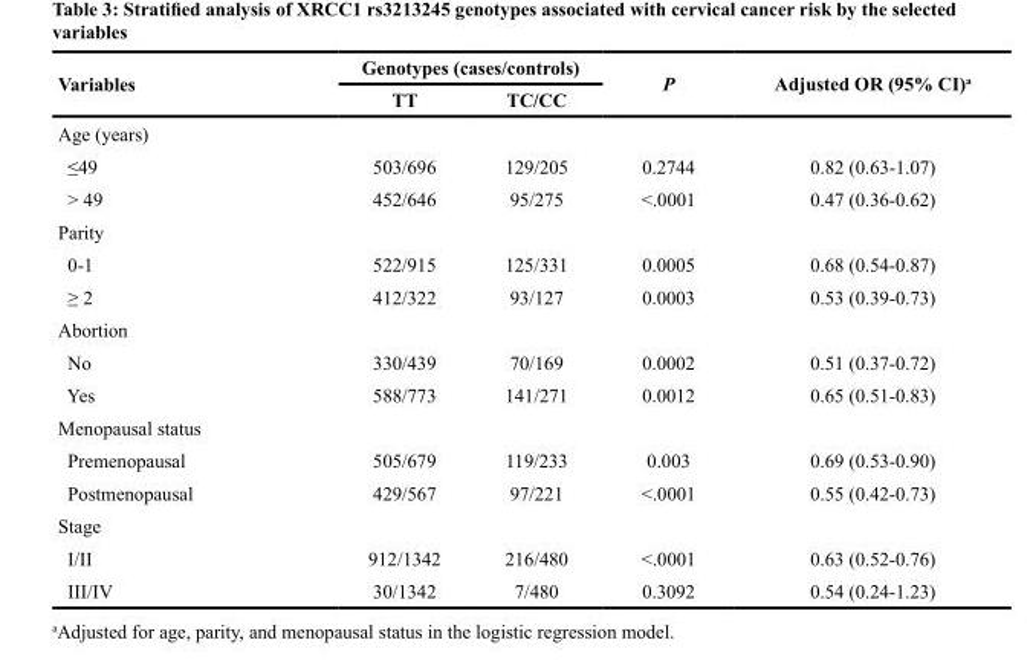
<table><thead><tr><td rowspan="2">Variables</td><td colspan="2">Genotypes (cases/controls)</td><td rowspan="2">P</td><td rowspan="2">Adjusted OR (95% CI)<sup>a</sup></td></tr><tr><td>TT</td><td>TC/CC</td></tr></thead><tbody><tr><td colspan="5">Age (years)</td></tr><tr><td>≤49</td><td>503/696</td><td>129/205</td><td>0.2744</td><td>0.82 (0.63-1.07)</td></tr><tr><td>&gt; 49</td><td>452/646</td><td>95/275</td><td>&lt;.0001</td><td>0.47 (0.36-0.62)</td></tr><tr><td colspan="5">Parity</td></tr><tr><td>0-1</td><td>522/915</td><td>125/331</td><td>0.0005</td><td>0.68 (0.54-0.87)</td></tr><tr><td>≥ 2</td><td>412/322</td><td>93/127</td><td>0.0003</td><td>0.53 (0.39-0.73)</td></tr><tr><td colspan="5">Abortion</td></tr><tr><td>No</td><td>330/439</td><td>70/169</td><td>0.0002</td><td>0.51 (0.37-0.72)</td></tr><tr><td>Yes</td><td>588/773</td><td>141/271</td><td>0.0012</td><td>0.65 (0.51-0.83)</td></tr><tr><td colspan="5">Menopausal status</td></tr><tr><td>Premenopausal</td><td>505/679</td><td>119/233</td><td>0.003</td><td>0.69 (0.53-0.90)</td></tr><tr><td>Postmenopausal</td><td>429/567</td><td>97/221</td><td>&lt;.0001</td><td>0.55 (0.42-0.73)</td></tr><tr><td colspan="5">Stage</td></tr><tr><td>I/II</td><td>912/1342</td><td>216/480</td><td>&lt;.0001</td><td>0.63 (0.52-0.76)</td></tr><tr><td>III/IV</td><td>30/1342</td><td>7/480</td><td>0.3092</td><td>0.54 (0.24-1.23)</td></tr></tbody></table>